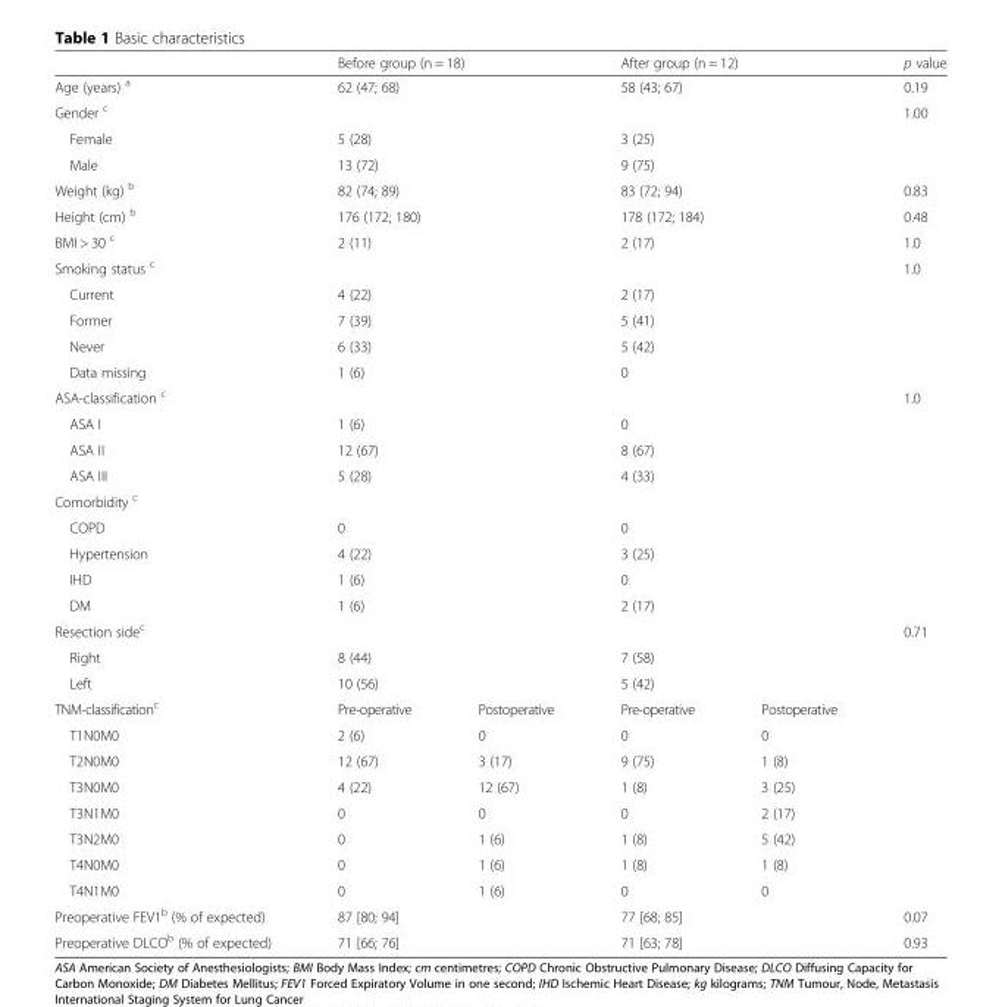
<table><thead><tr><td></td><td colspan="2">Before group (n = 18)</td><td colspan="2">After group (n = 12)</td><td>p value</td></tr></thead><tbody><tr><td>Age (years) <sup>a</sup></td><td colspan="2">62 (47; 68)</td><td colspan="2">58 (43; 67)</td><td>0.19</td></tr><tr><td>Gender <sup>c</sup></td><td colspan="2"></td><td colspan="2"></td><td>1.00</td></tr><tr><td>Female</td><td colspan="2">5 (28)</td><td colspan="2">3 (25)</td><td></td></tr><tr><td>Male</td><td colspan="2">13 (72)</td><td colspan="2">9 (75)</td><td></td></tr><tr><td>Weight (kg) <sup>b</sup></td><td colspan="2">82 (74; 89)</td><td colspan="2">83 (72; 94)</td><td>0.83</td></tr><tr><td>Height (cm) <sup>b</sup></td><td colspan="2">176 (172; 180)</td><td colspan="2">178 (172; 184)</td><td>0.48</td></tr><tr><td>BMI &gt; 30 <sup>c</sup></td><td colspan="2">2 (11)</td><td colspan="2">2 (17)</td><td>1.0</td></tr><tr><td>Smoking status <sup>c</sup></td><td colspan="2"></td><td colspan="2"></td><td>1.0</td></tr><tr><td>Current</td><td colspan="2">4 (22)</td><td colspan="2">2 (17)</td><td></td></tr><tr><td>Former</td><td colspan="2">7 (39)</td><td colspan="2">5 (41)</td><td></td></tr><tr><td>Never</td><td colspan="2">6 (33)</td><td colspan="2">5 (42)</td><td></td></tr><tr><td>Data missing</td><td colspan="2">1 (6)</td><td colspan="2">0</td><td></td></tr><tr><td>ASA-classification <sup>c</sup></td><td colspan="2"></td><td colspan="2"></td><td>1.0</td></tr><tr><td>ASA I</td><td colspan="2">1 (6)</td><td colspan="2">0</td><td></td></tr><tr><td>ASA II</td><td colspan="2">12 (67)</td><td colspan="2">8 (67)</td><td></td></tr><tr><td>ASA III</td><td colspan="2">5 (28)</td><td colspan="2">4 (33)</td><td></td></tr><tr><td colspan="6">Comorbidity <sup>c</sup></td></tr><tr><td>COPD</td><td colspan="2">0</td><td colspan="2">0</td><td></td></tr><tr><td>Hypertension</td><td colspan="2">4 (22)</td><td colspan="2">3 (25)</td><td></td></tr><tr><td>IHD</td><td colspan="2">1 (6)</td><td colspan="2">0</td><td></td></tr><tr><td>DM</td><td colspan="2">1 (6)</td><td colspan="2">2 (17)</td><td></td></tr><tr><td>Resection side<sup>c</sup></td><td colspan="2"></td><td colspan="2"></td><td>0.71</td></tr><tr><td>Right</td><td colspan="2">8 (44)</td><td colspan="2">7 (58)</td><td></td></tr><tr><td>Left</td><td colspan="2">10 (56)</td><td colspan="2">5 (42)</td><td></td></tr><tr><td>TNM-classification<sup>c</sup></td><td>Pre-operative</td><td>Postoperative</td><td>Pre-operative</td><td>Postoperative</td><td></td></tr><tr><td>T1N0M0</td><td>2 (6)</td><td>0</td><td>0</td><td>0</td><td></td></tr><tr><td>T2N0M0</td><td>12 (67)</td><td>3 (17)</td><td>9 (75)</td><td>1 (8)</td><td></td></tr><tr><td>T3N0M0</td><td>4 (22)</td><td>12 (67)</td><td>1 (8)</td><td>3 (25)</td><td></td></tr><tr><td>T3N1M0</td><td>0</td><td>0</td><td>0</td><td>2 (17)</td><td></td></tr><tr><td>T3N2M0</td><td>0</td><td>1 (6)</td><td>1 (8)</td><td>5 (42)</td><td></td></tr><tr><td>T4N0M0</td><td>0</td><td>1 (6)</td><td>1 (8)</td><td>1 (8)</td><td></td></tr><tr><td>T4N1M0</td><td>0</td><td>1 (6)</td><td>0</td><td>0</td><td></td></tr><tr><td>Preoperative FEV1<sup>b</sup> (% of expected)</td><td colspan="2">87 [80; 94]</td><td colspan="2">77 [68; 85]</td><td>0.07</td></tr><tr><td>Preoperative DLCO<sup>b</sup> (% of expected)</td><td colspan="2">71 [66; 76]</td><td colspan="2">71 [63; 78]</td><td>0.93</td></tr></tbody></table>